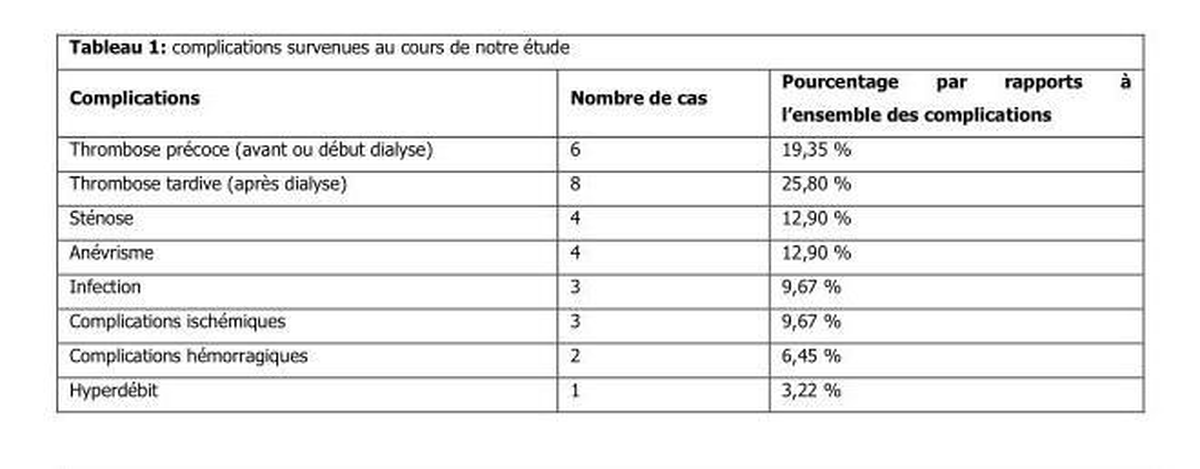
<table><thead><tr><td>Complications</td><td>Nombre de cas</td><td>Pourcentage par rapports à l’ensemble des complications</td></tr></thead><tbody><tr><td>Thrombose précoce (avant ou début dialyse)</td><td>6</td><td>19,35 %</td></tr><tr><td>Thrombose tardive (après dialyse)</td><td>8</td><td>25,80 %</td></tr><tr><td>Sténose</td><td>4</td><td>12,90 %</td></tr><tr><td>Anévrisme</td><td>4</td><td>12,90 %</td></tr><tr><td>Infection</td><td>3</td><td>9,67 %</td></tr><tr><td>Complications ischémiques</td><td>3</td><td>9,67 %</td></tr><tr><td>Complications hémorragiques</td><td>2</td><td>6,45 %</td></tr><tr><td>Hyperdébit</td><td>1</td><td>3,22 %</td></tr></tbody></table>